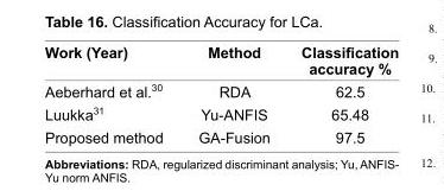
<table><thead><tr><td>Work (Year)</td><td>Method</td><td>Classifi cation accuracy %</td></tr></thead><tbody><tr><td>Aeberhard et al.<sup>30</sup></td><td>RDA</td><td>62.5</td></tr><tr><td>Luukka<sup>31</sup></td><td>Yu-ANFIS</td><td>65.48</td></tr><tr><td>Proposed method</td><td>GA-Fusion</td><td>97.5</td></tr></tbody></table>